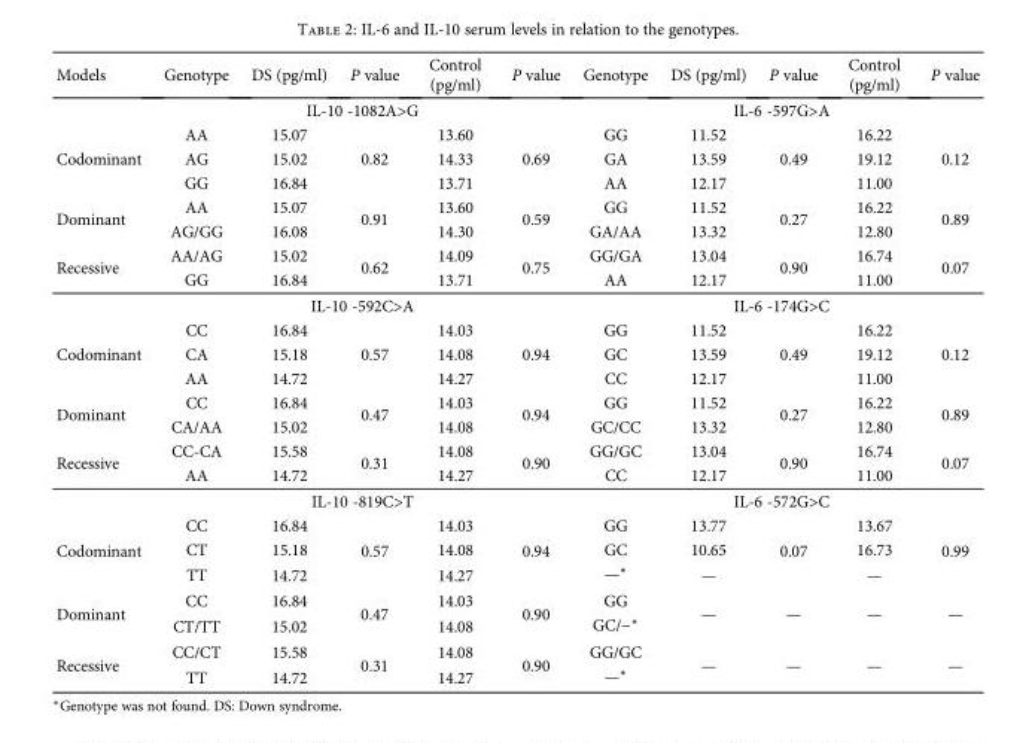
<table><thead><tr><td>Models</td><td>Genotype</td><td>DS (pg/ml)</td><td>P value</td><td>Control (pg/ml)</td><td>P value</td><td>Genotype</td><td>DS (pg/ml)</td><td>P value</td><td>Control (pg/ml)</td><td>P value</td></tr></thead><tbody><tr><td></td><td colspan="5">IL-10 -1082A&gt;G</td><td colspan="5">IL-6 -597G&gt;A</td></tr><tr><td rowspan="3">Codominant</td><td>AA</td><td>15.07</td><td rowspan="3">0.82</td><td>13.60</td><td rowspan="3">0.69</td><td>GG</td><td>11.52</td><td rowspan="3">0.49</td><td>16.22</td><td rowspan="3">0.12</td></tr><tr><td>AG</td><td>15.02</td><td>14.33</td><td>GA</td><td>13.59</td><td>19.12</td></tr><tr><td>GG</td><td>16.84</td><td>13.71</td><td>AA</td><td>12.17</td><td>11.00</td></tr><tr><td rowspan="2">Dominant</td><td>AA</td><td>15.07</td><td rowspan="2">0.91</td><td>13.60</td><td rowspan="2">0.59</td><td>GG</td><td>11.52</td><td rowspan="2">0.27</td><td>16.22</td><td rowspan="2">0.89</td></tr><tr><td>AG/GG</td><td>16.08</td><td>14.30</td><td>GA/AA</td><td>13.32</td><td>12.80</td></tr><tr><td rowspan="3">Recessive</td><td>AA/AG</td><td>15.02</td><td rowspan="2">0.62</td><td>14.09</td><td rowspan="2">0.75</td><td>GG/GA</td><td>13.04</td><td rowspan="2">0.90</td><td>16.74</td><td rowspan="2">0.07</td></tr><tr><td>GG</td><td>16.84</td><td>13.71</td><td>AA</td><td>12.17</td><td>11.00</td></tr><tr><td colspan="5">IL-10 -592C&gt;A</td><td colspan="5">IL-6 -174G&gt;C</td></tr><tr><td rowspan="3">Codominant</td><td>CC</td><td>16.84</td><td rowspan="3">0.57</td><td>14.03</td><td rowspan="3">0.94</td><td>GG</td><td>11.52</td><td rowspan="3">0.49</td><td>16.22</td><td rowspan="3">0.12</td></tr><tr><td>CA</td><td>15.18</td><td>14.08</td><td>GC</td><td>13.59</td><td>19.12</td></tr><tr><td>AA</td><td>14.72</td><td>14.27</td><td>CC</td><td>12.17</td><td>11.00</td></tr><tr><td rowspan="2">Dominant</td><td>CC</td><td>16.84</td><td rowspan="2">0.47</td><td>14.03</td><td rowspan="2">0.94</td><td>GG</td><td>11.52</td><td rowspan="2">0.27</td><td>16.22</td><td rowspan="2">0.89</td></tr><tr><td>CA/AA</td><td>15.02</td><td>14.08</td><td>GC/CC</td><td>13.32</td><td>12.80</td></tr><tr><td rowspan="3">Recessive</td><td>CC-CA</td><td>15.58</td><td rowspan="2">0.31</td><td>14.08</td><td rowspan="2">0.90</td><td>GG/GC</td><td>13.04</td><td rowspan="2">0.90</td><td>16.74</td><td rowspan="2">0.07</td></tr><tr><td>AA</td><td>14.72</td><td>14.27</td><td>CC</td><td>12.17</td><td>11.00</td></tr><tr><td colspan="5">IL-10 -819C&gt;T</td><td colspan="5">IL-6 -572G&gt;C</td></tr><tr><td rowspan="3">Codominant</td><td>CC</td><td>16.84</td><td rowspan="3">0.57</td><td>14.03</td><td rowspan="3">0.94</td><td>GG</td><td>13.77</td><td rowspan="3">0.07</td><td>13.67</td><td rowspan="3">0.99</td></tr><tr><td>CT</td><td>15.18</td><td>14.08</td><td>GC</td><td>10.65</td><td>16.73</td></tr><tr><td>TT</td><td>14.72</td><td>14.27</td><td>—∗</td><td>—</td><td>—</td></tr><tr><td rowspan="2">Dominant</td><td>CC</td><td>16.84</td><td rowspan="2">0.47</td><td>14.03</td><td rowspan="2">0.90</td><td>GG</td><td rowspan="2">—</td><td rowspan="2">—</td><td rowspan="2">—</td><td rowspan="2">—</td></tr><tr><td>CT/TT</td><td>15.02</td><td>14.08</td><td>GC/−∗</td></tr><tr><td rowspan="2">Recessive</td><td>CC/CT</td><td>15.58</td><td rowspan="2">0.31</td><td>14.08</td><td rowspan="2">0.90</td><td>GG/GC</td><td rowspan="2">—</td><td rowspan="2">—</td><td rowspan="2">—</td><td rowspan="2">—</td></tr><tr><td>TT</td><td>14.72</td><td>14.27</td><td>—∗</td></tr></tbody></table>